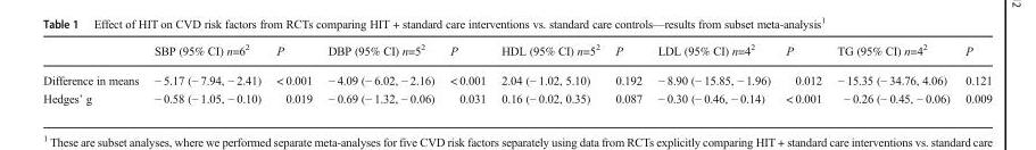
<table><thead><tr><td></td><td>SBP (95% CI) n=6<sup>2</sup></td><td>P</td><td>DBP (95% CI) n=5<sup>2</sup></td><td>P</td><td>HDL (95% CI) n=5<sup>2</sup></td><td>P</td><td>LDL (95% CI) n=4<sup>2</sup></td><td>P</td><td>TG (95% CI) n=4<sup>2</sup></td><td>P</td></tr></thead><tbody><tr><td>Difference in means</td><td>− 5.17 (− 7.94, − 2.41)</td><td>&lt; 0.001</td><td>− 4.09 (− 6.02, − 2.16)</td><td>&lt; 0.001</td><td>2.04 (− 1.02, 5.10)</td><td>0.192</td><td>− 8.90 (− 15.85, − 1.96)</td><td>0.012</td><td>− 15.35 (− 34.76, 4.06)</td><td>0.121</td></tr><tr><td>Hedges’ g</td><td>− 0.58 (− 1.05, − 0.10)</td><td>0.019</td><td>− 0.69 (− 1.32, − 0.06)</td><td>0.031</td><td>0.16 (− 0.02, 0.35)</td><td>0.087</td><td>− 0.30 (− 0.46, − 0.14)</td><td>&lt; 0.001</td><td>− 0.26 (− 0.45, − 0.06)</td><td>0.009</td></tr></tbody></table>